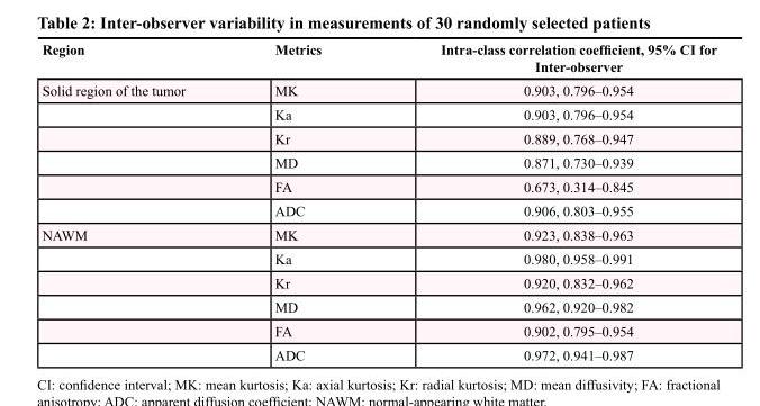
<table><thead><tr><td>Region</td><td>Metrics</td><td>Intra-class correlation coefficient, 95% CI for Inter-observer</td></tr></thead><tbody><tr><td rowspan="6">Solid region of the tumor</td><td>MK</td><td>0.903, 0.796–0.954</td></tr><tr><td>Ka</td><td>0.903, 0.796–0.954</td></tr><tr><td>Kr</td><td>0.889, 0.768–0.947</td></tr><tr><td>MD</td><td>0.871, 0.730–0.939</td></tr><tr><td>FA</td><td>0.673, 0.314–0.845</td></tr><tr><td>ADC</td><td>0.906, 0.803–0.955</td></tr><tr><td rowspan="6">NAWM</td><td>MK</td><td>0.923, 0.838–0.963</td></tr><tr><td>Ka</td><td>0.980, 0.958–0.991</td></tr><tr><td>Kr</td><td>0.920, 0.832–0.962</td></tr><tr><td>MD</td><td>0.962, 0.920–0.982</td></tr><tr><td>FA</td><td>0.902, 0.795–0.954</td></tr><tr><td>ADC</td><td>0.972, 0.941–0.987</td></tr></tbody></table>